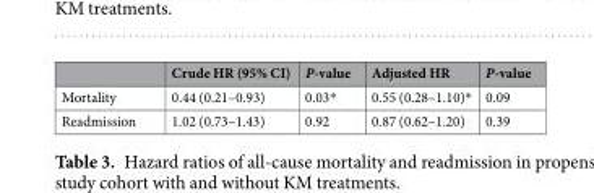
<table><thead><tr><td></td><td>Crude HR (95% CI)</td><td>P-value</td><td>Adjusted HR</td><td>P-value</td></tr></thead><tbody><tr><td>Mortality</td><td>0.44 (0.21–0.93)</td><td>0.03*</td><td>0.55 (0.28–1.10)*</td><td>0.09</td></tr><tr><td>Readmission</td><td>1.02 (0.73–1.43)</td><td>0.92</td><td>0.87 (0.62–1.20)</td><td>0.39</td></tr></tbody></table>